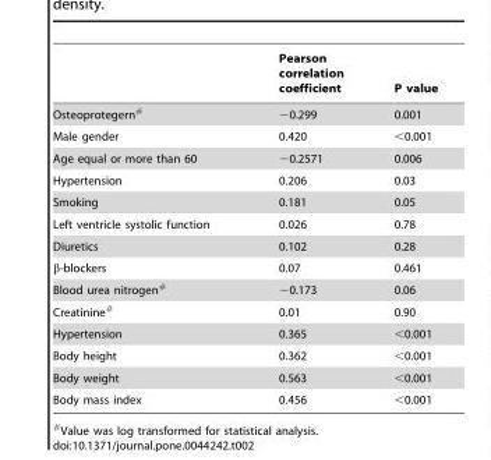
<table><thead><tr><td></td><td>Pearson correlation coefficient</td><td>P value</td></tr></thead><tbody><tr><td>Osteoprotegern#</td><td>−0.299</td><td>0.001</td></tr><tr><td>Male gender</td><td>0.420</td><td>&lt;0.001</td></tr><tr><td>Age equal or more than 60</td><td>−0.2571</td><td>0.006</td></tr><tr><td>Hypertension</td><td>0.206</td><td>0.03</td></tr><tr><td>Smoking</td><td>0.181</td><td>0.05</td></tr><tr><td>Left ventricle systolic function</td><td>0.026</td><td>0.78</td></tr><tr><td>Diuretics</td><td>0.102</td><td>0.28</td></tr><tr><td>β-blockers</td><td>0.07</td><td>0.461</td></tr><tr><td>Blood urea nitrogen#</td><td>−0.173</td><td>0.06</td></tr><tr><td>Creatinine#</td><td>0.01</td><td>0.90</td></tr><tr><td>Hypertension</td><td>0.365</td><td>&lt;0.001</td></tr><tr><td>Body height</td><td>0.362</td><td>&lt;0.001</td></tr><tr><td>Body weight</td><td>0.563</td><td>&lt;0.001</td></tr><tr><td>Body mass index</td><td>0.456</td><td>&lt;0.001</td></tr></tbody></table>